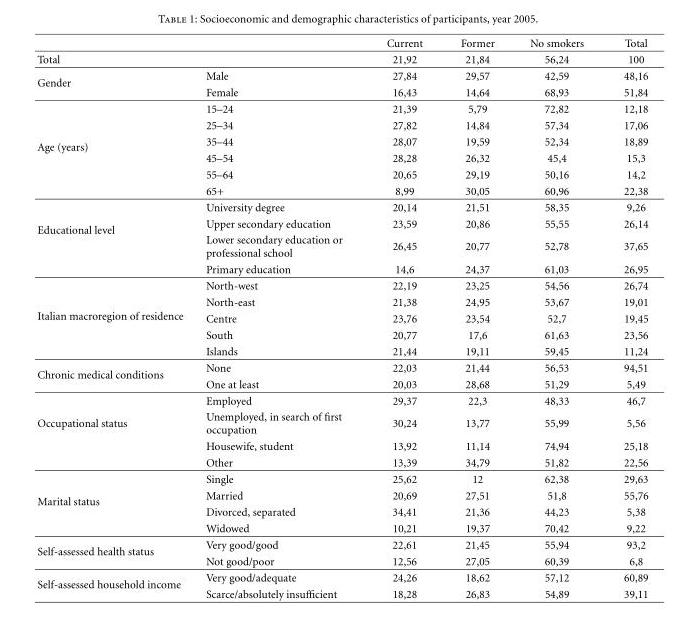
<table><thead><tr><td></td><td></td><td>Current</td><td>Former</td><td>No smokers</td><td>Total</td></tr></thead><tbody><tr><td>Total</td><td></td><td>21,92</td><td>21,84</td><td>56,24</td><td>100</td></tr><tr><td rowspan="2">Gender</td><td>Male</td><td>27,84</td><td>29,57</td><td>42,59</td><td>48,16</td></tr><tr><td>Female</td><td>16,43</td><td>14,64</td><td>68,93</td><td>51,84</td></tr><tr><td rowspan="6">Age (years)</td><td>15–24</td><td>21,39</td><td>5,79</td><td>72,82</td><td>12,18</td></tr><tr><td>25–34</td><td>27,82</td><td>14,84</td><td>57,34</td><td>17,06</td></tr><tr><td>35–44</td><td>28,07</td><td>19,59</td><td>52,34</td><td>18,89</td></tr><tr><td>45–54</td><td>28,28</td><td>26,32</td><td>45,4</td><td>15,3</td></tr><tr><td>55–64</td><td>20,65</td><td>29,19</td><td>50,16</td><td>14,2</td></tr><tr><td>65+</td><td>8,99</td><td>30,05</td><td>60,96</td><td>22,38</td></tr><tr><td rowspan="4">Educational level</td><td>University degree</td><td>20,14</td><td>21,51</td><td>58,35</td><td>9,26</td></tr><tr><td>Upper secondary education</td><td>23,59</td><td>20,86</td><td>55,55</td><td>26,14</td></tr><tr><td>Lower secondary education or professional school</td><td>26,45</td><td>20,77</td><td>52,78</td><td>37,65</td></tr><tr><td>Primary education</td><td>14,6</td><td>24,37</td><td>61,03</td><td>26,95</td></tr><tr><td rowspan="5">Italian macroregion of residence</td><td>North-west</td><td>22,19</td><td>23,25</td><td>54,56</td><td>26,74</td></tr><tr><td>North-east</td><td>21,38</td><td>24,95</td><td>53,67</td><td>19,01</td></tr><tr><td>Centre</td><td>23,76</td><td>23,54</td><td>52,7</td><td>19,45</td></tr><tr><td>South</td><td>20,77</td><td>17,6</td><td>61,63</td><td>23,56</td></tr><tr><td>Islands</td><td>21,44</td><td>19,11</td><td>59,45</td><td>11,24</td></tr><tr><td rowspan="2">Chronic medical conditions</td><td>None</td><td>22,03</td><td>21,44</td><td>56,53</td><td>94,51</td></tr><tr><td>One at least</td><td>20,03</td><td>28,68</td><td>51,29</td><td>5,49</td></tr><tr><td rowspan="4">Occupational status</td><td>Employed</td><td>29,37</td><td>22,3</td><td>48,33</td><td>46,7</td></tr><tr><td>Unemployed, in search of first occupation</td><td>30,24</td><td>13,77</td><td>55,99</td><td>5,56</td></tr><tr><td>Housewife, student</td><td>13,92</td><td>11,14</td><td>74,94</td><td>25,18</td></tr><tr><td>Other</td><td>13,39</td><td>34,79</td><td>51,82</td><td>22,56</td></tr><tr><td rowspan="4">Marital status</td><td>Single</td><td>25,62</td><td>12</td><td>62,38</td><td>29,63</td></tr><tr><td>Married</td><td>20,69</td><td>27,51</td><td>51,8</td><td>55,76</td></tr><tr><td>Divorced, separated</td><td>34,41</td><td>21,36</td><td>44,23</td><td>5,38</td></tr><tr><td>Widowed</td><td>10,21</td><td>19,37</td><td>70,42</td><td>9,22</td></tr><tr><td rowspan="2">Self-assessed health status</td><td>Very good/good</td><td>22,61</td><td>21,45</td><td>55,94</td><td>93,2</td></tr><tr><td>Not good/poor</td><td>12,56</td><td>27,05</td><td>60,39</td><td>6,8</td></tr><tr><td rowspan="2">Self-assessed household income</td><td>Very good/adequate</td><td>24,26</td><td>18,62</td><td>57,12</td><td>60,89</td></tr><tr><td>Scarce/absolutely insufficient</td><td>18,28</td><td>26,83</td><td>54,89</td><td>39,11</td></tr></tbody></table>